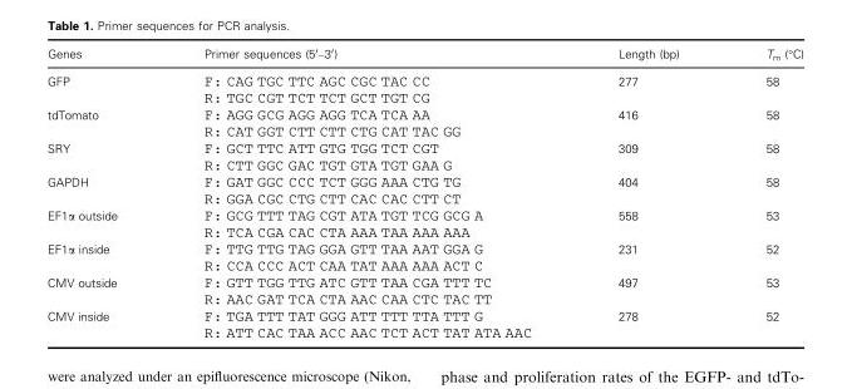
<table><thead><tr><td>Genes</td><td>Primer sequences (5′–3′)</td><td>Length (bp)</td><td>T<sub>m</sub> (°C)</td></tr></thead><tbody><tr><td>GFP</td><td>F: CAG TGC TTC AGC CGC TAC CC R: TGC CGT TCT TCT GCT TGT CG</td><td>277</td><td>58</td></tr><tr><td>tdTomato</td><td>F: AGG GCG AGG AGG TCA TCA AA R: CAT GGT CTT CTT CTG CAT TAC GG</td><td>416</td><td>58</td></tr><tr><td>SRY</td><td>F: GCT TTC ATT GTG TGG TCT CGT R: CTT GGC GAC TGT GTA TGT GAA G</td><td>309</td><td>58</td></tr><tr><td>GAPDH</td><td>F: GAT GGC CCC TCT GGG AAA CTG TG R: GGA CGC CTG CTT CAC CAC CTT CT</td><td>404</td><td>58</td></tr><tr><td>EF1α outside</td><td>F: GCG TTT TAG CGT ATA TGT TCG GCG A R: TCA CGA CAC CTA AAA TAA AAA AAA</td><td>558</td><td>53</td></tr><tr><td>EF1α inside</td><td>F: TTG TTG TAG GGA GTT TAA AAT GGA G R: CCA CCC ACT CAA TAT AAA AAA ACT C</td><td>231</td><td>52</td></tr><tr><td>CMV outside</td><td>F: GTT TGG TTG ATC GTT TAA CGA TTT TC R: AAC GAT TCA CTA AAC CAA CTC TAC TT</td><td>497</td><td>53</td></tr><tr><td>CMV inside</td><td>F: TGA TTT TAT GGG ATT TTT TTA TTT G R: ATT CAC TAA ACC AAC TCT ACT TAT ATA AAC</td><td>278</td><td>52</td></tr></tbody></table>